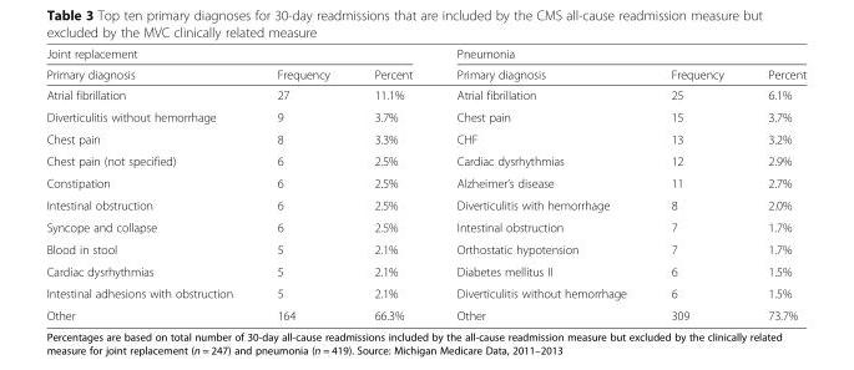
<table><thead><tr><td colspan="3">Joint replacement</td><td colspan="3">Pneumonia</td></tr><tr><td>Primary diagnosis</td><td>Frequency</td><td>Percent</td><td>Primary diagnosis</td><td>Frequency</td><td>Percent</td></tr></thead><tbody><tr><td>Atrial fibrillation</td><td>27</td><td>11.1%</td><td>Atrial fibrillation</td><td>25</td><td>6.1%</td></tr><tr><td>Diverticulitis without hemorrhage</td><td>9</td><td>3.7%</td><td>Chest pain</td><td>15</td><td>3.7%</td></tr><tr><td>Chest pain</td><td>8</td><td>3.3%</td><td>CHF</td><td>13</td><td>3.2%</td></tr><tr><td>Chest pain (not specified)</td><td>6</td><td>2.5%</td><td>Cardiac dysrhythmias</td><td>12</td><td>2.9%</td></tr><tr><td>Constipation</td><td>6</td><td>2.5%</td><td>Alzheimer’s disease</td><td>11</td><td>2.7%</td></tr><tr><td>Intestinal obstruction</td><td>6</td><td>2.5%</td><td>Diverticulitis with hemorrhage</td><td>8</td><td>2.0%</td></tr><tr><td>Syncope and collapse</td><td>6</td><td>2.5%</td><td>Intestinal obstruction</td><td>7</td><td>1.7%</td></tr><tr><td>Blood in stool</td><td>5</td><td>2.1%</td><td>Orthostatic hypotension</td><td>7</td><td>1.7%</td></tr><tr><td>Cardiac dysrhythmias</td><td>5</td><td>2.1%</td><td>Diabetes mellitus II</td><td>6</td><td>1.5%</td></tr><tr><td>Intestinal adhesions with obstruction</td><td>5</td><td>2.1%</td><td>Diverticulitis without hemorrhage</td><td>6</td><td>1.5%</td></tr><tr><td>Other</td><td>164</td><td>66.3%</td><td>Other</td><td>309</td><td>73.7%</td></tr></tbody></table>